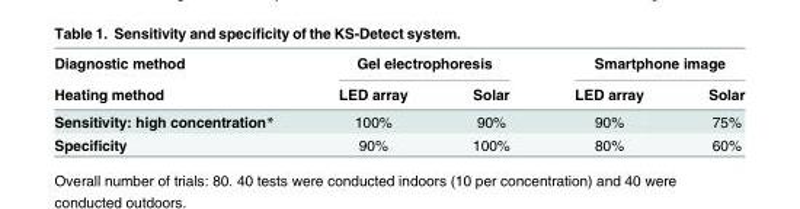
<table><thead><tr><td rowspan="2">Diagnostic method Heating method</td><td colspan="2">Gel electrophoresis</td><td colspan="2">Smartphone image</td></tr><tr><td>LED array</td><td>Solar</td><td>LED array</td><td>Solar</td></tr></thead><tbody><tr><td>Sensitivity: high concentration*</td><td>100%</td><td>90%</td><td>90%</td><td>75%</td></tr><tr><td>Specificity</td><td>90%</td><td>100%</td><td>80%</td><td>60%</td></tr></tbody></table>